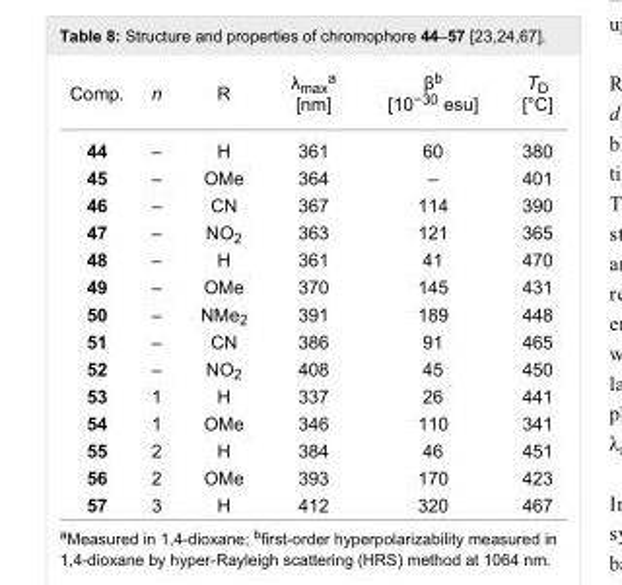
<table><tbody><tr><td>Comp.</td><td>n</td><td>R</td><td>λ<sub>max</sub><sup>a</sup> [nm]</td><td>β<sup>b</sup> [10<sup>−30</sup> esu]</td><td>T<sub>D</sub> [°C]</td></tr><tr><td>44</td><td>–</td><td>H</td><td>361</td><td>60</td><td>380</td></tr><tr><td>45</td><td>–</td><td>OMe</td><td>364</td><td>–</td><td>401</td></tr><tr><td>46</td><td>–</td><td>CN</td><td>367</td><td>114</td><td>390</td></tr><tr><td>47</td><td>–</td><td>NO<sub>2</sub></td><td>363</td><td>121</td><td>365</td></tr><tr><td>48</td><td>–</td><td>H</td><td>361</td><td>41</td><td>470</td></tr><tr><td>49</td><td>–</td><td>OMe</td><td>370</td><td>145</td><td>431</td></tr><tr><td>50</td><td>–</td><td>NMe<sub>2</sub></td><td>391</td><td>189</td><td>448</td></tr><tr><td>51</td><td>–</td><td>CN</td><td>386</td><td>91</td><td>465</td></tr><tr><td>52</td><td>–</td><td>NO<sub>2</sub></td><td>408</td><td>45</td><td>450</td></tr><tr><td>53</td><td>1</td><td>H</td><td>337</td><td>26</td><td>441</td></tr><tr><td>54</td><td>1</td><td>OMe</td><td>346</td><td>110</td><td>341</td></tr><tr><td>55</td><td>2</td><td>H</td><td>384</td><td>46</td><td>451</td></tr><tr><td>56</td><td>2</td><td>OMe</td><td>393</td><td>170</td><td>423</td></tr><tr><td>57</td><td>3</td><td>H</td><td>412</td><td>320</td><td>467</td></tr></tbody></table>